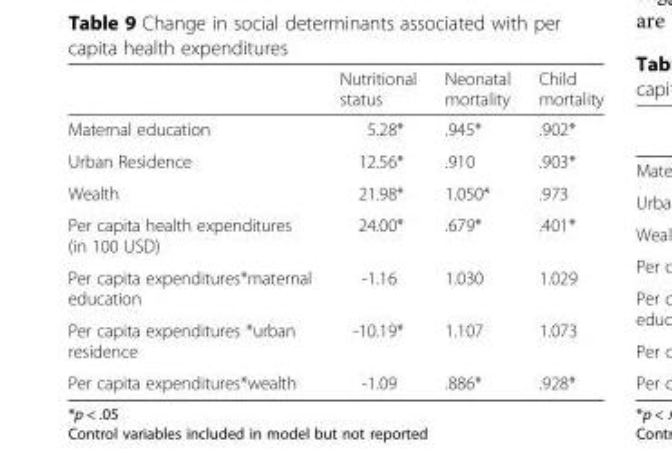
<table><thead><tr><td></td><td>Nutritional status</td><td>Neonatal mortality</td><td>Child mortality</td></tr></thead><tbody><tr><td>Maternal education</td><td>5.28*</td><td>.945*</td><td>.902*</td></tr><tr><td>Urban Residence</td><td>12.56*</td><td>.910</td><td>.903*</td></tr><tr><td>Wealth</td><td>21.98*</td><td>1.050*</td><td>.973</td></tr><tr><td>Per capita health expenditures (in 100 USD)</td><td>24.00*</td><td>.679*</td><td>.401*</td></tr><tr><td>Per capita expenditures*maternal education</td><td>-1.16</td><td>1.030</td><td>1.029</td></tr><tr><td>Per capita expenditures *urban residence</td><td>-10.19*</td><td>1.107</td><td>1.073</td></tr><tr><td>Per capita expenditures*wealth</td><td>-1.09</td><td>.886*</td><td>.928*</td></tr></tbody></table>